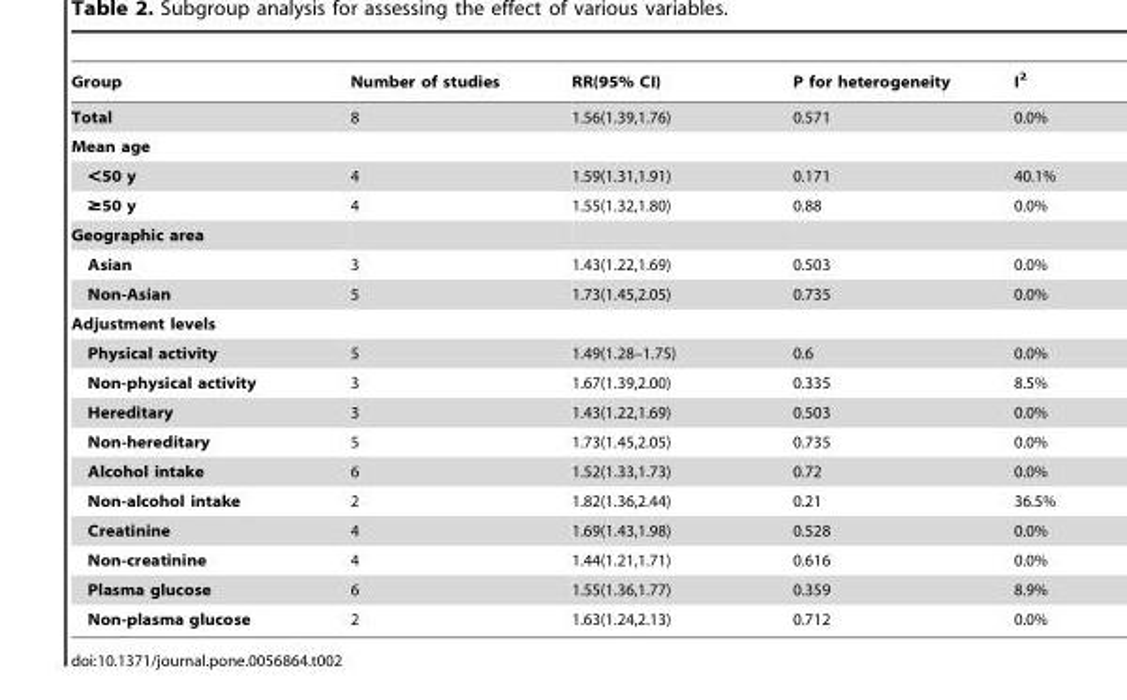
<table><thead><tr><td>Group</td><td>Number of studies</td><td>RR(95% CI)</td><td>P for heterogeneity</td><td>I<sup>2</sup></td></tr></thead><tbody><tr><td>Total</td><td>8</td><td>1.56(1.39,1.76)</td><td>0.571</td><td>0.0%</td></tr><tr><td colspan="5">Mean age</td></tr><tr><td>&lt;50 y</td><td>4</td><td>1.59(1.31,1.91)</td><td>0.171</td><td>40.1%</td></tr><tr><td>≥50 y</td><td>4</td><td>1.55(1.32,1.80)</td><td>0.88</td><td>0.0%</td></tr><tr><td colspan="5">Geographic area</td></tr><tr><td>Asian</td><td>3</td><td>1.43(1.22,1.69)</td><td>0.503</td><td>0.0%</td></tr><tr><td>Non-Asian</td><td>5</td><td>1.73(1.45,2.05)</td><td>0.735</td><td>0.0%</td></tr><tr><td colspan="5">Adjustment levels</td></tr><tr><td>Physical activity</td><td>5</td><td>1.49(1.28–1.75)</td><td>0.6</td><td>0.0%</td></tr><tr><td>Non-physical activity</td><td>3</td><td>1.67(1.39,2.00)</td><td>0.335</td><td>8.5%</td></tr><tr><td>Hereditary</td><td>3</td><td>1.43(1.22,1.69)</td><td>0.503</td><td>0.0%</td></tr><tr><td>Non-hereditary</td><td>5</td><td>1.73(1.45,2.05)</td><td>0.735</td><td>0.0%</td></tr><tr><td>Alcohol intake</td><td>6</td><td>1.52(1.33,1.73)</td><td>0.72</td><td>0.0%</td></tr><tr><td>Non-alcohol intake</td><td>2</td><td>1.82(1.36,2.44)</td><td>0.21</td><td>36.5%</td></tr><tr><td>Creatinine</td><td>4</td><td>1.69(1.43,1.98)</td><td>0.528</td><td>0.0%</td></tr><tr><td>Non-creatinine</td><td>4</td><td>1.44(1.21,1.71)</td><td>0.616</td><td>0.0%</td></tr><tr><td>Plasma glucose</td><td>6</td><td>1.55(1.36,1.77)</td><td>0.359</td><td>8.9%</td></tr><tr><td>Non-plasma glucose</td><td>2</td><td>1.63(1.24,2.13)</td><td>0.712</td><td>0.0%</td></tr></tbody></table>